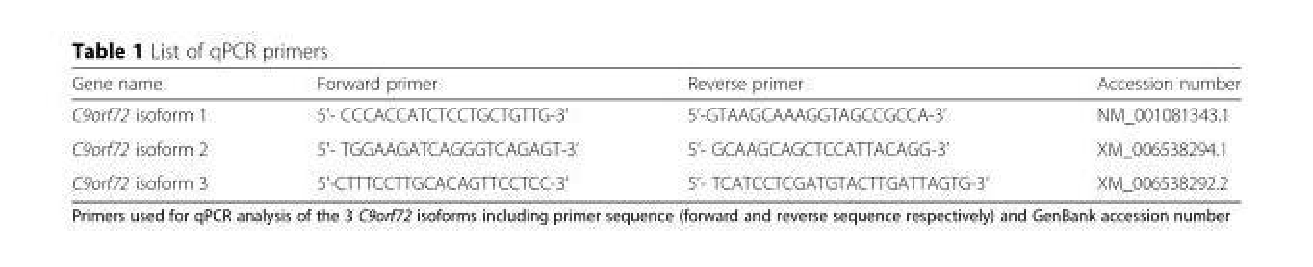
<table><thead><tr><td>Gene name</td><td>Forward primer</td><td>Reverse primer</td><td>Accession number</td></tr></thead><tbody><tr><td>C9orf72 isoform 1</td><td>5’- CCCACCATCTCCTGCTGTTG-3’</td><td>5’-GTAAGCAAAGGTAGCCGCCA-3’</td><td>NM_001081343.1</td></tr><tr><td>C9orf72 isoform 2</td><td>5’- TGGAAGATCAGGGTCAGAGT-3’</td><td>5’- GCAAGCAGCTCCATTACAGG-3’</td><td>XM_006538294.1</td></tr><tr><td>C9orf72 isoform 3</td><td>5’-CTTTCCTTGCACAGTTCCTCC-3’</td><td>5’- TCATCCTCGATGTACTTGATTAGTG-3’</td><td>XM_006538292.2</td></tr></tbody></table>